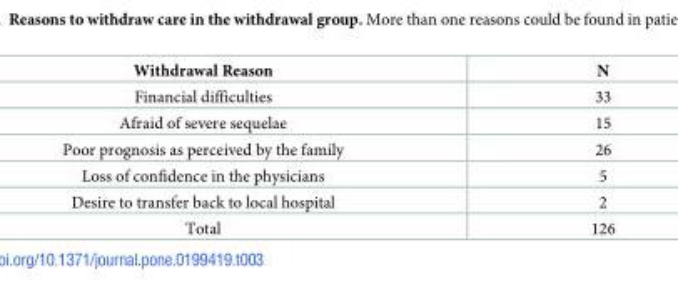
<table><thead><tr><td>Withdrawal Reason</td><td>N</td></tr></thead><tbody><tr><td>Financial difficulties</td><td>33</td></tr><tr><td>Afraid of severe sequelae</td><td>15</td></tr><tr><td>Poor prognosis as perceived by the family</td><td>26</td></tr><tr><td>Loss of confidence in the physicians</td><td>5</td></tr><tr><td>Desire to transfer back to local hospital</td><td>2</td></tr><tr><td>Total</td><td>126</td></tr></tbody></table>